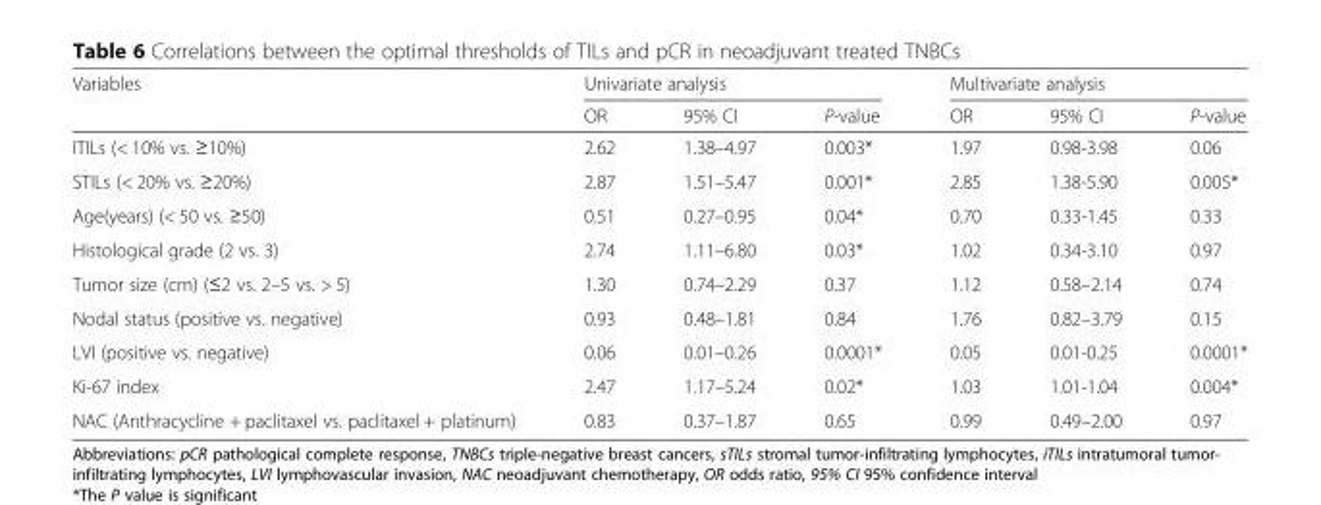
<table><thead><tr><td rowspan="2">Variables</td><td colspan="3">Univariate analysis</td><td colspan="3">Multivariate analysis</td></tr><tr><td>OR</td><td>95% CI</td><td>P-value</td><td>OR</td><td>95% CI</td><td>P-value</td></tr></thead><tbody><tr><td>ITILs (&lt; 10% vs. ≥10%)</td><td>2.62</td><td>1.38–4.97</td><td>0.003*</td><td>1.97</td><td>0.98-3.98</td><td>0.06</td></tr><tr><td>STILs (&lt; 20% vs. ≥20%)</td><td>2.87</td><td>1.51–5.47</td><td>0.001*</td><td>2.85</td><td>1.38-5.90</td><td>0.005*</td></tr><tr><td>Age(years) (&lt; 50 vs. ≥50)</td><td>0.51</td><td>0.27–0.95</td><td>0.04*</td><td>0.70</td><td>0.33-1.45</td><td>0.33</td></tr><tr><td>Histological grade (2 vs. 3)</td><td>2.74</td><td>1.11–6.80</td><td>0.03*</td><td>1.02</td><td>0.34-3.10</td><td>0.97</td></tr><tr><td>Tumor size (cm) (≤2 vs. 2–5 vs. &gt; 5)</td><td>1.30</td><td>0.74–2.29</td><td>0.37</td><td>1.12</td><td>0.58–2.14</td><td>0.74</td></tr><tr><td>Nodal status (positive vs. negative)</td><td>0.93</td><td>0.48–1.81</td><td>0.84</td><td>1.76</td><td>0.82–3.79</td><td>0.15</td></tr><tr><td>LVI (positive vs. negative)</td><td>0.06</td><td>0.01–0.26</td><td>0.0001*</td><td>0.05</td><td>0.01-0.25</td><td>0.0001*</td></tr><tr><td>Ki-67 index</td><td>2.47</td><td>1.17–5.24</td><td>0.02*</td><td>1.03</td><td>1.01-1.04</td><td>0.004*</td></tr><tr><td>NAC (Anthracycline + paclitaxel vs. paclitaxel + platinum)</td><td>0.83</td><td>0.37–1.87</td><td>0.65</td><td>0.99</td><td>0.49–2.00</td><td>0.97</td></tr></tbody></table>